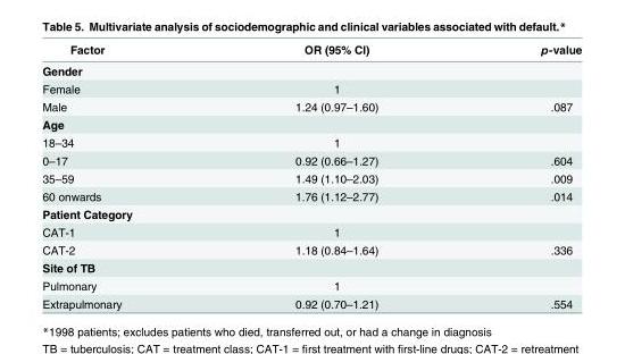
<table><thead><tr><td>Factor</td><td>OR (95% CI)</td><td>p-value</td></tr></thead><tbody><tr><td colspan="3">Gender</td></tr><tr><td>Female</td><td>1</td><td></td></tr><tr><td>Male</td><td>1.24 (0.97–1.60)</td><td>.087</td></tr><tr><td colspan="3">Age</td></tr><tr><td>18–34</td><td>1</td><td></td></tr><tr><td>0–17</td><td>0.92 (0.66–1.27)</td><td>.604</td></tr><tr><td>35–59</td><td>1.49 (1.10–2.03)</td><td>.009</td></tr><tr><td>60 onwards</td><td>1.76 (1.12–2.77)</td><td>.014</td></tr><tr><td colspan="3">Patient Category</td></tr><tr><td>CAT-1</td><td>1</td><td></td></tr><tr><td>CAT-2</td><td>1.18 (0.84–1.64)</td><td>.336</td></tr><tr><td colspan="3">Site of TB</td></tr><tr><td>Pulmonary</td><td>1</td><td></td></tr><tr><td>Extrapulmonary</td><td>0.92 (0.70–1.21)</td><td>.554</td></tr></tbody></table>